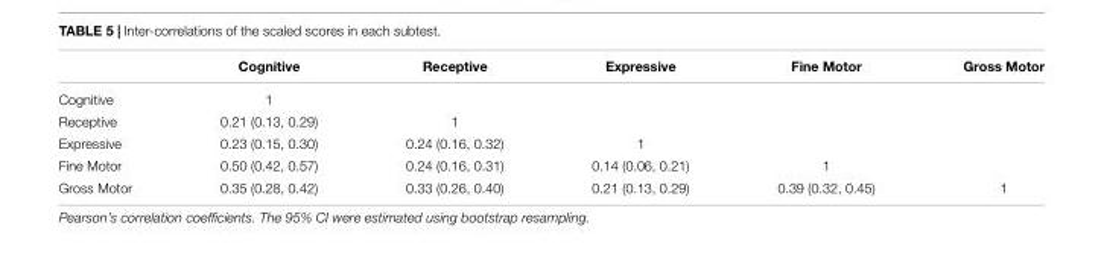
<table><thead><tr><td></td><td>Cognitive</td><td>Receptive</td><td>Expressive</td><td>Fine Motor</td><td>Gross Motor</td></tr></thead><tbody><tr><td>Cognitive</td><td>1</td><td></td><td></td><td></td><td></td></tr><tr><td>Receptive</td><td>0.21 (0.13, 0.29)</td><td>1</td><td></td><td></td><td></td></tr><tr><td>Expressive</td><td>0.23 (0.15, 0.30)</td><td>0.24 (0.16, 0.32)</td><td>1</td><td></td><td></td></tr><tr><td>Fine Motor</td><td>0.50 (0.42, 0.57)</td><td>0.24 (0.16, 0.31)</td><td>0.14 (0.06, 0.21)</td><td>1</td><td></td></tr><tr><td>Gross Motor</td><td>0.35 (0.28, 0.42)</td><td>0.33 (0.26, 0.40)</td><td>0.21 (0.13, 0.29)</td><td>0.39 (0.32, 0.45)</td><td>1</td></tr></tbody></table>